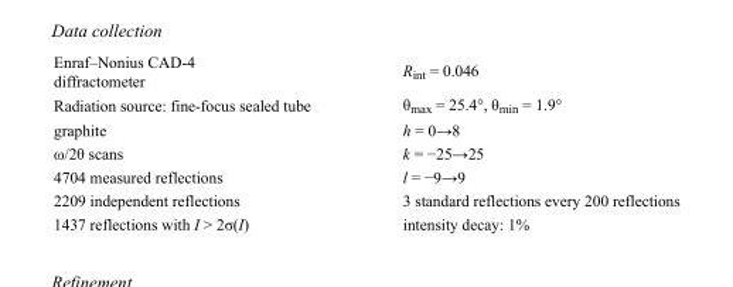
<table><tbody><tr><td>Enraf–Nonius CAD-4 diffractometer</td><td>R<sub>int</sub> = 0.046</td></tr><tr><td>Radiation source: fine-focus sealed tube</td><td>θ<sub>max</sub> = 25.4°, θ<sub>min</sub> = 1.9°</td></tr><tr><td>graphite</td><td>h = 0→8</td></tr><tr><td>ω/2θ scans</td><td>k = −25→25</td></tr><tr><td>4704 measured reflections</td><td>l = −9→9</td></tr><tr><td>2209 independent reflections</td><td>3 standard reflections every 200 reflections</td></tr><tr><td>1437 reflections with I &gt; 2σ(I)</td><td>intensity decay: 1%</td></tr></tbody></table>